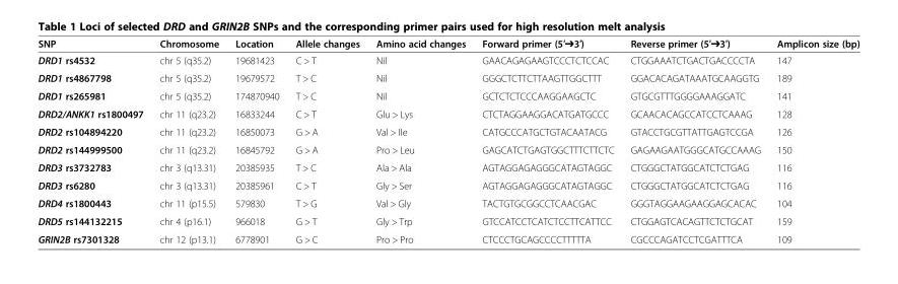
<table><thead><tr><td>SNP</td><td>Chromosome</td><td>Location</td><td>Allele changes</td><td>Amino acid changes</td><td>Forward primer (5′➔3′)</td><td>Reverse primer (5′➔3′)</td><td>Amplicon size (bp)</td></tr></thead><tbody><tr><td>DRD1 rs4532</td><td>chr 5 (q35.2)</td><td>19681423</td><td>C &gt; T</td><td>Nil</td><td>GAACAGAGAAGTCCCTCTCCAC</td><td>CTGGAAATCTGACTGACCCCTA</td><td>147</td></tr><tr><td>DRD1 rs4867798</td><td>chr 5 (q35.2)</td><td>19679572</td><td>T &gt; C</td><td>Nil</td><td>GGGCTCTTCTTAAGTTGGCTTT</td><td>GGACACAGATAAATGCAAGGTG</td><td>189</td></tr><tr><td>DRD1 rs265981</td><td>chr 5 (q35.2)</td><td>174870940</td><td>T &gt; C</td><td>Nil</td><td>GCTCTCTCCCAAGGAAGCTC</td><td>GTGCGTTTGGGGAAAGGATC</td><td>141</td></tr><tr><td>DRD2/ANKK1 rs1800497</td><td>chr 11 (q23.2)</td><td>16833244</td><td>C &gt; T</td><td>Glu &gt; Lys</td><td>CTCTAGGAAGGACATGATGCCC</td><td>GCAACACAGCCATCCTCAAAG</td><td>128</td></tr><tr><td>DRD2 rs104894220</td><td>chr 11 (q23.2)</td><td>16850073</td><td>G &gt; A</td><td>Val &gt; Ile</td><td>CATGCCCATGCTGTACAATACG</td><td>GTACCTGCGTTATTGAGTCCGA</td><td>126</td></tr><tr><td>DRD2 rs144999500</td><td>chr 11 (q23.2)</td><td>16845792</td><td>G &gt; A</td><td>Pro &gt; Leu</td><td>GAGCATCTGAGTGGCTTTCTTCTC</td><td>GAGAAGAATGGGCATGCCAAAG</td><td>150</td></tr><tr><td>DRD3 rs3732783</td><td>chr 3 (q13.31)</td><td>20385935</td><td>T &gt; C</td><td>Ala &gt; Ala</td><td>AGTAGGAGAGGGCATAGTAGGC</td><td>CTGGGCTATGGCATCTCTGAG</td><td>116</td></tr><tr><td>DRD3 rs6280</td><td>chr 3 (q13.31)</td><td>20385961</td><td>C &gt; T</td><td>Gly &gt; Ser</td><td>AGTAGGAGAGGGCATAGTAGGC</td><td>CTGGGCTATGGCATCTCTGAG</td><td>116</td></tr><tr><td>DRD4 rs1800443</td><td>chr 11 (p15.5)</td><td>579830</td><td>T &gt; G</td><td>Val &gt; Gly</td><td>TACTGTGCGGCCTCAACGAC</td><td>GGGTAGGAAGAAGGAGCACAC</td><td>104</td></tr><tr><td>DRD5 rs144132215</td><td>chr 4 (p16.1)</td><td>966018</td><td>G &gt; T</td><td>Gly &gt; Trp</td><td>GTCCATCCTCATCTCCTTCATTCC</td><td>CTGGAGTCACAGTTCTCTGCAT</td><td>159</td></tr><tr><td>GRIN2B rs7301328</td><td>chr 12 (p13.1)</td><td>6778901</td><td>G &gt; C</td><td>Pro &gt; Pro</td><td>CTCCCTGCAGCCCCTTTTTA</td><td>CGCCCAGATCCTCGATTTCA</td><td>109</td></tr></tbody></table>